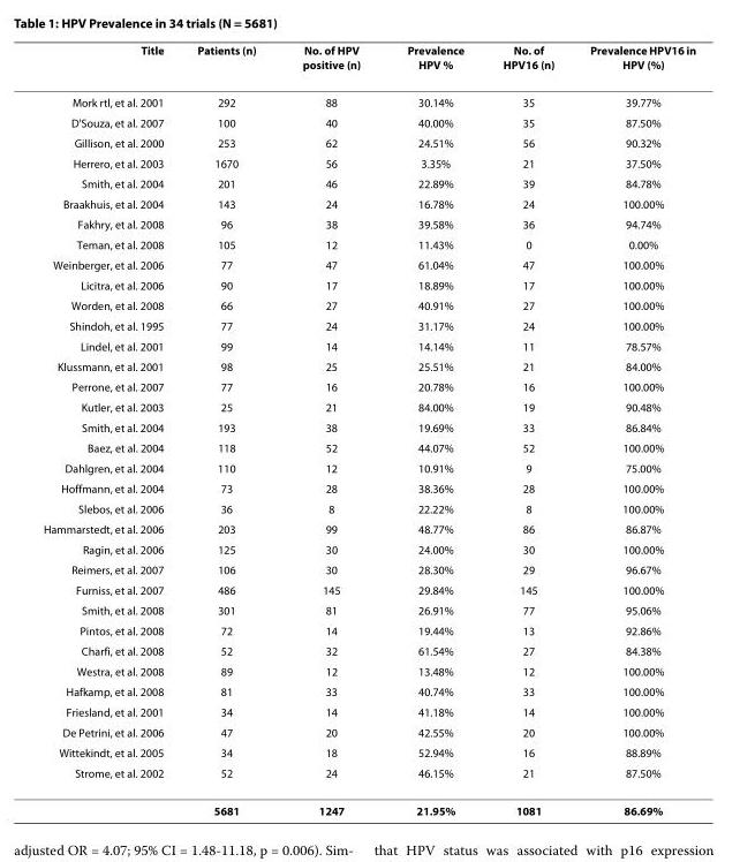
<table><thead><tr><td>Title</td><td>Patients (n)</td><td>No. of HPV positive (n)</td><td>Prevalence HPV %</td><td>No. of HPV16 (n)</td><td>Prevalence HPV16 in HPV (%)</td></tr></thead><tbody><tr><td>Mork rtl, et al. 2001</td><td>292</td><td>88</td><td>30.14%</td><td>35</td><td>39.77%</td></tr><tr><td>D&#x27;Souza, et al. 2007</td><td>100</td><td>40</td><td>40.00%</td><td>35</td><td>87.50%</td></tr><tr><td>Gillison, et al. 2000</td><td>253</td><td>62</td><td>24.51%</td><td>56</td><td>90.32%</td></tr><tr><td>Herrero, et al. 2003</td><td>1670</td><td>56</td><td>3.35%</td><td>21</td><td>37.50%</td></tr><tr><td>Smith, et al. 2004</td><td>201</td><td>46</td><td>22.89%</td><td>39</td><td>84.78%</td></tr><tr><td>Braakhuis, et al. 2004</td><td>143</td><td>24</td><td>16.78%</td><td>24</td><td>100.00%</td></tr><tr><td>Fakhry, et al. 2008</td><td>96</td><td>38</td><td>39.58%</td><td>36</td><td>94.74%</td></tr><tr><td>Teman, et al. 2008</td><td>105</td><td>12</td><td>11.43%</td><td>0</td><td>0.00%</td></tr><tr><td>Weinberger, et al. 2006</td><td>77</td><td>47</td><td>61.04%</td><td>47</td><td>100.00%</td></tr><tr><td>Licitra, et al. 2006</td><td>90</td><td>17</td><td>18.89%</td><td>17</td><td>100.00%</td></tr><tr><td>Worden, et al. 2008</td><td>66</td><td>27</td><td>40.91%</td><td>27</td><td>100.00%</td></tr><tr><td>Shindoh, et al. 1995</td><td>77</td><td>24</td><td>31.17%</td><td>24</td><td>100.00%</td></tr><tr><td>Lindel, et al. 2001</td><td>99</td><td>14</td><td>14.14%</td><td>11</td><td>78.57%</td></tr><tr><td>Klussmann, et al. 2001</td><td>98</td><td>25</td><td>25.51%</td><td>21</td><td>84.00%</td></tr><tr><td>Perrone, et al. 2007</td><td>77</td><td>16</td><td>20.78%</td><td>16</td><td>100.00%</td></tr><tr><td>Kutler, et al. 2003</td><td>25</td><td>21</td><td>84.00%</td><td>19</td><td>90.48%</td></tr><tr><td>Smith, et al. 2004</td><td>193</td><td>38</td><td>19.69%</td><td>33</td><td>86.84%</td></tr><tr><td>Baez, et al. 2004</td><td>118</td><td>52</td><td>44.07%</td><td>52</td><td>100.00%</td></tr><tr><td>Dahlgren, et al. 2004</td><td>110</td><td>12</td><td>10.91%</td><td>9</td><td>75.00%</td></tr><tr><td>Hoffmann, et al. 2004</td><td>73</td><td>28</td><td>38.36%</td><td>28</td><td>100.00%</td></tr><tr><td>Slebos, et al. 2006</td><td>36</td><td>8</td><td>22.22%</td><td>8</td><td>100.00%</td></tr><tr><td>Hammarstedt, et al. 2006</td><td>203</td><td>99</td><td>48.77%</td><td>86</td><td>86.87%</td></tr><tr><td>Ragin, et al. 2006</td><td>125</td><td>30</td><td>24.00%</td><td>30</td><td>100.00%</td></tr><tr><td>Reimers, et al. 2007</td><td>106</td><td>30</td><td>28.30%</td><td>29</td><td>96.67%</td></tr><tr><td>Furniss, et al. 2007</td><td>486</td><td>145</td><td>29.84%</td><td>145</td><td>100.00%</td></tr><tr><td>Smith, et al. 2008</td><td>301</td><td>81</td><td>26.91%</td><td>77</td><td>95.06%</td></tr><tr><td>Pintos, et al. 2008</td><td>72</td><td>14</td><td>19.44%</td><td>13</td><td>92.86%</td></tr><tr><td>Charfi, et al. 2008</td><td>52</td><td>32</td><td>61.54%</td><td>27</td><td>84.38%</td></tr><tr><td>Westra, et al. 2008</td><td>89</td><td>12</td><td>13.48%</td><td>12</td><td>100.00%</td></tr><tr><td>Hafkamp, et al. 2008</td><td>81</td><td>33</td><td>40.74%</td><td>33</td><td>100.00%</td></tr><tr><td>Friesland, et al. 2001</td><td>34</td><td>14</td><td>41.18%</td><td>14</td><td>100.00%</td></tr><tr><td>De Petrini, et al. 2006</td><td>47</td><td>20</td><td>42.55%</td><td>20</td><td>100.00%</td></tr><tr><td>Wittekindt, et al. 2005</td><td>34</td><td>18</td><td>52.94%</td><td>16</td><td>88.89%</td></tr><tr><td rowspan="2">Strome, et al. 2002</td><td>52</td><td>24</td><td>46.15%</td><td>21</td><td>87.50%</td></tr><tr><td>5681</td><td>1247</td><td>21.95%</td><td>1081</td><td>86.69%</td></tr></tbody></table>